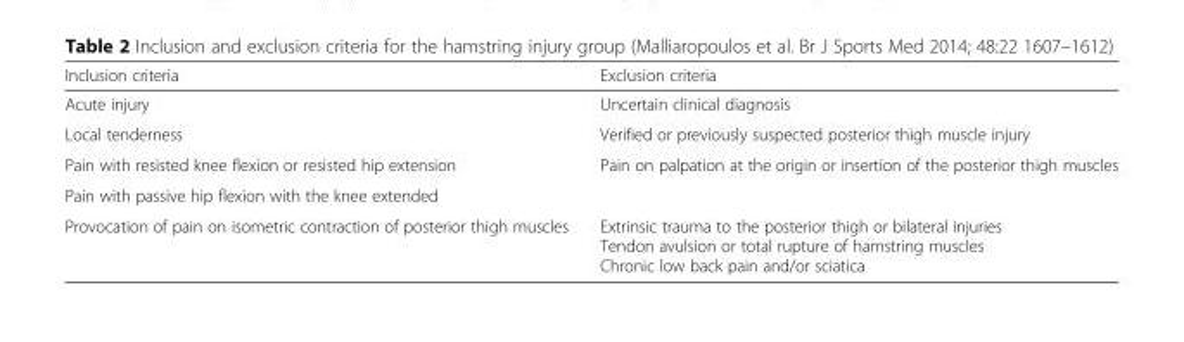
<table><thead><tr><td>Inclusion criteria</td><td>Exclusion criteria</td></tr></thead><tbody><tr><td>Acute injury</td><td>Uncertain clinical diagnosis</td></tr><tr><td>Local tenderness</td><td>Verified or previously suspected posterior thigh muscle injury</td></tr><tr><td>Pain with resisted knee flexion or resisted hip extension</td><td>Pain on palpation at the origin or insertion of the posterior thigh muscles</td></tr><tr><td colspan="2">Pain with passive hip flexion with the knee extended</td></tr><tr><td>Provocation of pain on isometric contraction of posterior thigh muscles</td><td>Extrinsic trauma to the posterior thigh or bilateral injuries Tendon avulsion or total rupture of hamstring muscles Chronic low back pain and/or sciatica</td></tr></tbody></table>